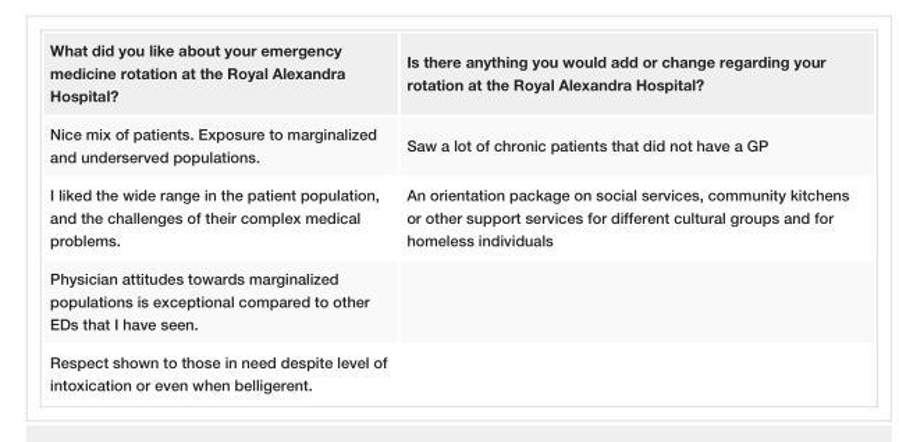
<table><tbody><tr><td>What did you like about your emergency medicine rotation at the Royal Alexandra Hospital?</td><td>Is there anything you would add or change regarding your rotation at the Royal Alexandra Hospital?</td></tr><tr><td>Nice mix of patients. Exposure to marginalized and underserved populations.</td><td>Saw a lot of chronic patients that did not have a GP</td></tr><tr><td>I liked the wide range in the patient population, and the challenges of their complex medical problems.</td><td>An orientation package on social services, community kitchens or other support services for different cultural groups and for homeless individuals</td></tr><tr><td colspan="2">Physician attitudes towards marginalized populations is exceptional compared to other EDs that I have seen.</td></tr><tr><td>Respect shown to those in need despite level of intoxication or even when belligerent.</td><td></td></tr></tbody></table>